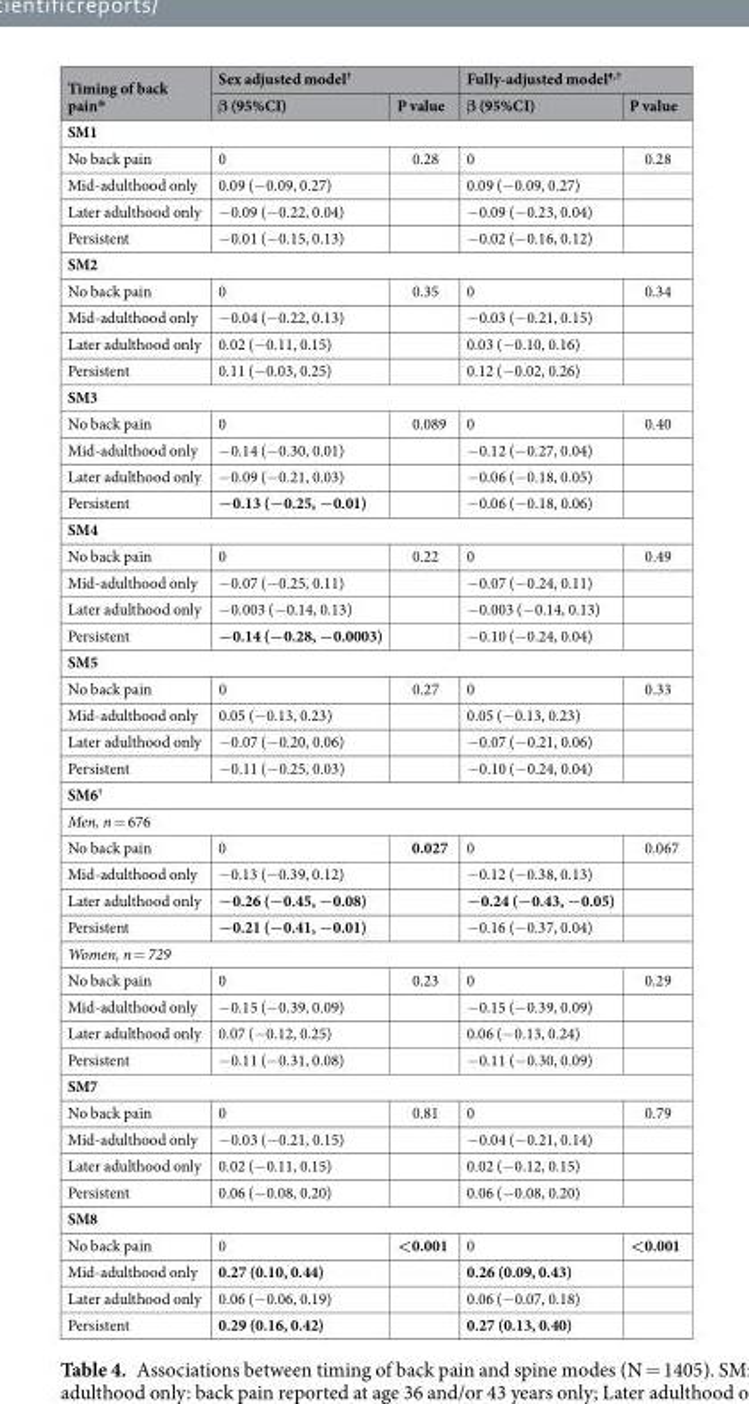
<table><thead><tr><td rowspan="2">Timing of back pain*</td><td colspan="2">Sex adjusted model<sup>†</sup></td><td colspan="2">Fully-adjusted model<sup>¶,†</sup></td></tr><tr><td>β (95%CI)</td><td>P value</td><td>β (95%CI)</td><td>P value</td></tr></thead><tbody><tr><td colspan="5">SM1</td></tr><tr><td>No back pain</td><td>0</td><td>0.28</td><td>0</td><td>0.28</td></tr><tr><td>Mid-adulthood only</td><td>0.09 (−0.09, 0.27)</td><td></td><td>0.09 (−0.09, 0.27)</td><td></td></tr><tr><td>Later adulthood only</td><td>−0.09 (−0.22, 0.04)</td><td></td><td>−0.09 (−0.23, 0.04)</td><td></td></tr><tr><td>Persistent</td><td>−0.01 (−0.15, 0.13)</td><td></td><td>−0.02 (−0.16, 0.12)</td><td></td></tr><tr><td colspan="5">SM2</td></tr><tr><td>No back pain</td><td>0</td><td>0.35</td><td>0</td><td>0.34</td></tr><tr><td>Mid-adulthood only</td><td>−0.04 (−0.22, 0.13)</td><td></td><td>−0.03 (−0.21, 0.15)</td><td></td></tr><tr><td>Later adulthood only</td><td>0.02 (−0.11, 0.15)</td><td></td><td>0.03 (−0.10, 0.16)</td><td></td></tr><tr><td>Persistent</td><td>0.11 (−0.03, 0.25)</td><td></td><td>0.12 (−0.02, 0.26)</td><td></td></tr><tr><td colspan="5">SM3</td></tr><tr><td>No back pain</td><td>0</td><td>0.089</td><td>0</td><td>0.40</td></tr><tr><td>Mid-adulthood only</td><td>−0.14 (−0.30, 0.01)</td><td></td><td>−0.12 (−0.27, 0.04)</td><td></td></tr><tr><td>Later adulthood only</td><td>−0.09 (−0.21, 0.03)</td><td></td><td>−0.06 (−0.18, 0.05)</td><td></td></tr><tr><td>Persistent</td><td>−0.13 (−0.25, −0.01)</td><td></td><td>−0.06 (−0.18, 0.06)</td><td></td></tr><tr><td colspan="5">SM4</td></tr><tr><td>No back pain</td><td>0</td><td>0.22</td><td>0</td><td>0.49</td></tr><tr><td>Mid-adulthood only</td><td>−0.07 (−0.25, 0.11)</td><td></td><td>−0.07 (−0.24, 0.11)</td><td></td></tr><tr><td>Later adulthood only</td><td>−0.003 (−0.14, 0.13)</td><td></td><td>−0.003 (−0.14, 0.13)</td><td></td></tr><tr><td>Persistent</td><td>−0.14 (−0.28, −0.0003)</td><td></td><td>−0.10 (−0.24, 0.04)</td><td></td></tr><tr><td colspan="5">SM5</td></tr><tr><td>No back pain</td><td>0</td><td>0.27</td><td>0</td><td>0.33</td></tr><tr><td>Mid-adulthood only</td><td>0.05 (−0.13, 0.23)</td><td></td><td>0.05 (−0.13, 0.23)</td><td></td></tr><tr><td>Later adulthood only</td><td>−0.07 (−0.20, 0.06)</td><td></td><td>−0.07 (−0.21, 0.06)</td><td></td></tr><tr><td>Persistent</td><td>−0.11 (−0.25, 0.03)</td><td></td><td>−0.10 (−0.24, 0.04)</td><td></td></tr><tr><td colspan="5">SM6<sup>†</sup></td></tr><tr><td colspan="5">Men, n = 676</td></tr><tr><td>No back pain</td><td>0</td><td>0.027</td><td>0</td><td>0.067</td></tr><tr><td>Mid-adulthood only</td><td>−0.13 (−0.39, 0.12)</td><td></td><td>−0.12 (−0.38, 0.13)</td><td></td></tr><tr><td>Later adulthood only</td><td>−0.26 (−0.45, −0.08)</td><td></td><td>−0.24 (−0.43, −0.05)</td><td></td></tr><tr><td>Persistent</td><td>−0.21 (−0.41, −0.01)</td><td></td><td>−0.16 (−0.37, 0.04)</td><td></td></tr><tr><td colspan="5">Women, n = 729</td></tr><tr><td>No back pain</td><td>0</td><td>0.23</td><td>0</td><td>0.29</td></tr><tr><td>Mid-adulthood only</td><td>−0.15 (−0.39, 0.09)</td><td></td><td>−0.15 (−0.39, 0.09)</td><td></td></tr><tr><td>Later adulthood only</td><td>0.07 (−0.12, 0.25)</td><td></td><td>0.06 (−0.13, 0.24)</td><td></td></tr><tr><td>Persistent</td><td>−0.11 (−0.31, 0.08)</td><td></td><td>−0.11 (−0.30, 0.09)</td><td></td></tr><tr><td colspan="5">SM7</td></tr><tr><td>No back pain</td><td>0</td><td>0.81</td><td>0</td><td>0.79</td></tr><tr><td>Mid-adulthood only</td><td>−0.03 (−0.21, 0.15)</td><td></td><td>−0.04 (−0.21, 0.14)</td><td></td></tr><tr><td>Later adulthood only</td><td>0.02 (−0.11, 0.15)</td><td></td><td>0.02 (−0.12, 0.15)</td><td></td></tr><tr><td>Persistent</td><td>0.06 (−0.08, 0.20)</td><td></td><td>0.06 (−0.08, 0.20)</td><td></td></tr><tr><td colspan="5">SM8</td></tr><tr><td>No back pain</td><td>0</td><td>&lt;0.001</td><td>0</td><td>&lt;0.001</td></tr><tr><td>Mid-adulthood only</td><td>0.27 (0.10, 0.44)</td><td></td><td>0.26 (0.09, 0.43)</td><td></td></tr><tr><td>Later adulthood only</td><td>0.06 (−0.06, 0.19)</td><td></td><td>0.06 (−0.07, 0.18)</td><td></td></tr><tr><td>Persistent</td><td>0.29 (0.16, 0.42)</td><td></td><td>0.27 (0.13, 0.40)</td><td></td></tr></tbody></table>